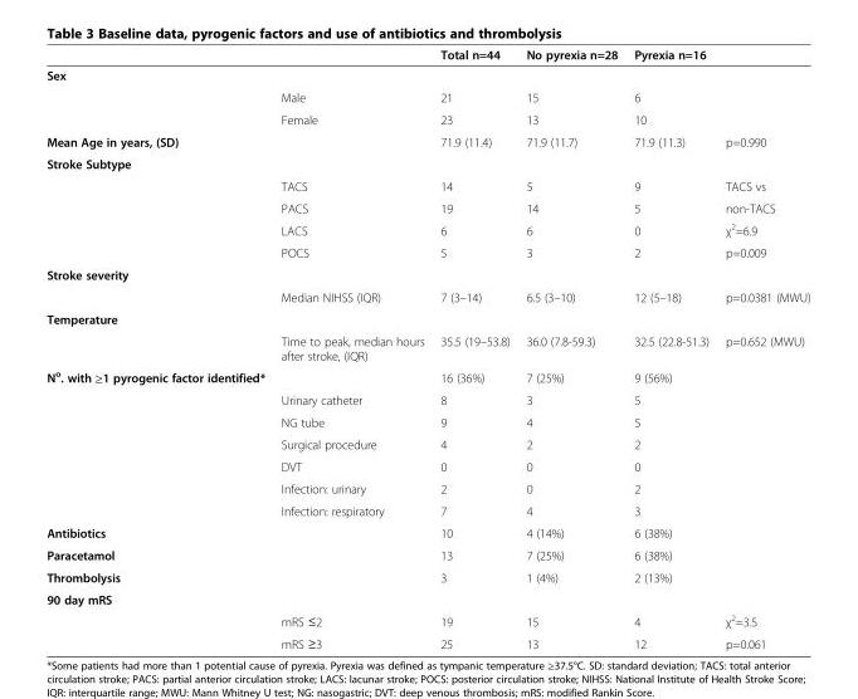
<table><thead><tr><td></td><td></td><td>Total n=44</td><td>No pyrexia n=28</td><td>Pyrexia n=16</td><td></td></tr></thead><tbody><tr><td colspan="6">Sex</td></tr><tr><td></td><td>Male</td><td>21</td><td>15</td><td>6</td><td></td></tr><tr><td></td><td>Female</td><td>23</td><td>13</td><td>10</td><td></td></tr><tr><td>Mean Age in years, (SD)</td><td></td><td>71.9 (11.4)</td><td>71.9 (11.7)</td><td>71.9 (11.3)</td><td>p=0.990</td></tr><tr><td colspan="6">Stroke Subtype</td></tr><tr><td></td><td>TACS</td><td>14</td><td>5</td><td>9</td><td>TACS vs</td></tr><tr><td></td><td>PACS</td><td>19</td><td>14</td><td>5</td><td>non-TACS</td></tr><tr><td></td><td>LACS</td><td>6</td><td>6</td><td>0</td><td>χ<sup>2</sup>=6.9</td></tr><tr><td></td><td>POCS</td><td>5</td><td>3</td><td>2</td><td>p=0.009</td></tr><tr><td colspan="6">Stroke severity</td></tr><tr><td></td><td>Median NIHSS (IQR)</td><td>7 (3–14)</td><td>6.5 (3–10)</td><td>12 (5–18)</td><td>p=0.0381 (MWU)</td></tr><tr><td colspan="6">Temperature</td></tr><tr><td></td><td>Time to peak, median hours after stroke, (IQR)</td><td>35.5 (19–53.8)</td><td>36.0 (7.8-59.3)</td><td>32.5 (22.8-51.3)</td><td>p=0.652 (MWU)</td></tr><tr><td rowspan="7">N<sup>o</sup>. with ≥1 pyrogenic factor identified*</td><td></td><td>16 (36%)</td><td>7 (25%)</td><td>9 (56%)</td><td></td></tr><tr><td>Urinary catheter</td><td>8</td><td>3</td><td>5</td><td></td></tr><tr><td>NG tube</td><td>9</td><td>4</td><td>5</td><td></td></tr><tr><td>Surgical procedure</td><td>4</td><td>2</td><td>2</td><td></td></tr><tr><td>DVT</td><td>0</td><td>0</td><td>0</td><td></td></tr><tr><td>Infection: urinary</td><td>2</td><td>0</td><td>2</td><td></td></tr><tr><td>Infection: respiratory</td><td>7</td><td>4</td><td>3</td><td></td></tr><tr><td>Antibiotics</td><td></td><td>10</td><td>4 (14%)</td><td>6 (38%)</td><td></td></tr><tr><td>Paracetamol</td><td></td><td>13</td><td>7 (25%)</td><td>6 (38%)</td><td></td></tr><tr><td>Thrombolysis</td><td></td><td>3</td><td>1 (4%)</td><td>2 (13%)</td><td></td></tr><tr><td colspan="6">90 day mRS</td></tr><tr><td></td><td>mRS ≤2</td><td>19</td><td>15</td><td>4</td><td>χ<sup>2</sup>=3.5</td></tr><tr><td></td><td>mRS ≥3</td><td>25</td><td>13</td><td>12</td><td>p=0.061</td></tr></tbody></table>